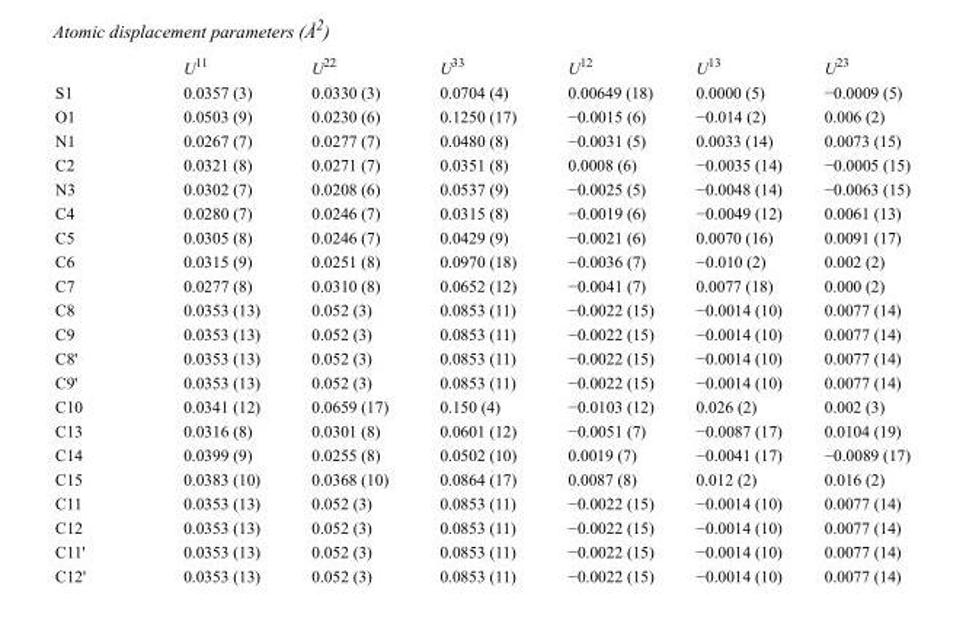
<table><thead><tr><td></td><td>U<sup>11</sup></td><td>U<sup>22</sup></td><td>U<sup>33</sup></td><td>U<sup>12</sup></td><td>U<sup>13</sup></td><td>U<sup>23</sup></td></tr></thead><tbody><tr><td>S1</td><td>0.0357 (3)</td><td>0.0330 (3)</td><td>0.0704 (4)</td><td>0.00649 (18)</td><td>0.0000 (5)</td><td>−0.0009 (5)</td></tr><tr><td>O1</td><td>0.0503 (9)</td><td>0.0230 (6)</td><td>0.1250 (17)</td><td>−0.0015 (6)</td><td>−0.014 (2)</td><td>0.006 (2)</td></tr><tr><td>N1</td><td>0.0267 (7)</td><td>0.0277 (7)</td><td>0.0480 (8)</td><td>−0.0031 (5)</td><td>0.0033 (14)</td><td>0.0073 (15)</td></tr><tr><td>C2</td><td>0.0321 (8)</td><td>0.0271 (7)</td><td>0.0351 (8)</td><td>0.0008 (6)</td><td>−0.0035 (14)</td><td>−0.0005 (15)</td></tr><tr><td>N3</td><td>0.0302 (7)</td><td>0.0208 (6)</td><td>0.0537 (9)</td><td>−0.0025 (5)</td><td>−0.0048 (14)</td><td>−0.0063 (15)</td></tr><tr><td>C4</td><td>0.0280 (7)</td><td>0.0246 (7)</td><td>0.0315 (8)</td><td>−0.0019 (6)</td><td>−0.0049 (12)</td><td>0.0061 (13)</td></tr><tr><td>C5</td><td>0.0305 (8)</td><td>0.0246 (7)</td><td>0.0429 (9)</td><td>−0.0021 (6)</td><td>0.0070 (16)</td><td>0.0091 (17)</td></tr><tr><td>C6</td><td>0.0315 (9)</td><td>0.0251 (8)</td><td>0.0970 (18)</td><td>−0.0036 (7)</td><td>−0.010 (2)</td><td>0.002 (2)</td></tr><tr><td>C7</td><td>0.0277 (8)</td><td>0.0310 (8)</td><td>0.0652 (12)</td><td>−0.0041 (7)</td><td>0.0077 (18)</td><td>0.000 (2)</td></tr><tr><td>C8</td><td>0.0353 (13)</td><td>0.052 (3)</td><td>0.0853 (11)</td><td>−0.0022 (15)</td><td>−0.0014 (10)</td><td>0.0077 (14)</td></tr><tr><td>C9</td><td>0.0353 (13)</td><td>0.052 (3)</td><td>0.0853 (11)</td><td>−0.0022 (15)</td><td>−0.0014 (10)</td><td>0.0077 (14)</td></tr><tr><td>C8&#x27;</td><td>0.0353 (13)</td><td>0.052 (3)</td><td>0.0853 (11)</td><td>−0.0022 (15)</td><td>−0.0014 (10)</td><td>0.0077 (14)</td></tr><tr><td>C9&#x27;</td><td>0.0353 (13)</td><td>0.052 (3)</td><td>0.0853 (11)</td><td>−0.0022 (15)</td><td>−0.0014 (10)</td><td>0.0077 (14)</td></tr><tr><td>C10</td><td>0.0341 (12)</td><td>0.0659 (17)</td><td>0.150 (4)</td><td>−0.0103 (12)</td><td>0.026 (2)</td><td>0.002 (3)</td></tr><tr><td>C13</td><td>0.0316 (8)</td><td>0.0301 (8)</td><td>0.0601 (12)</td><td>−0.0051 (7)</td><td>−0.0087 (17)</td><td>0.0104 (19)</td></tr><tr><td>C14</td><td>0.0399 (9)</td><td>0.0255 (8)</td><td>0.0502 (10)</td><td>0.0019 (7)</td><td>−0.0041 (17)</td><td>−0.0089 (17)</td></tr><tr><td>C15</td><td>0.0383 (10)</td><td>0.0368 (10)</td><td>0.0864 (17)</td><td>0.0087 (8)</td><td>0.012 (2)</td><td>0.016 (2)</td></tr><tr><td>C11</td><td>0.0353 (13)</td><td>0.052 (3)</td><td>0.0853 (11)</td><td>−0.0022 (15)</td><td>−0.0014 (10)</td><td>0.0077 (14)</td></tr><tr><td>C12</td><td>0.0353 (13)</td><td>0.052 (3)</td><td>0.0853 (11)</td><td>−0.0022 (15)</td><td>−0.0014 (10)</td><td>0.0077 (14)</td></tr><tr><td>C11&#x27;</td><td>0.0353 (13)</td><td>0.052 (3)</td><td>0.0853 (11)</td><td>−0.0022 (15)</td><td>−0.0014 (10)</td><td>0.0077 (14)</td></tr><tr><td>C12&#x27;</td><td>0.0353 (13)</td><td>0.052 (3)</td><td>0.0853 (11)</td><td>−0.0022 (15)</td><td>−0.0014 (10)</td><td>0.0077 (14)</td></tr></tbody></table>